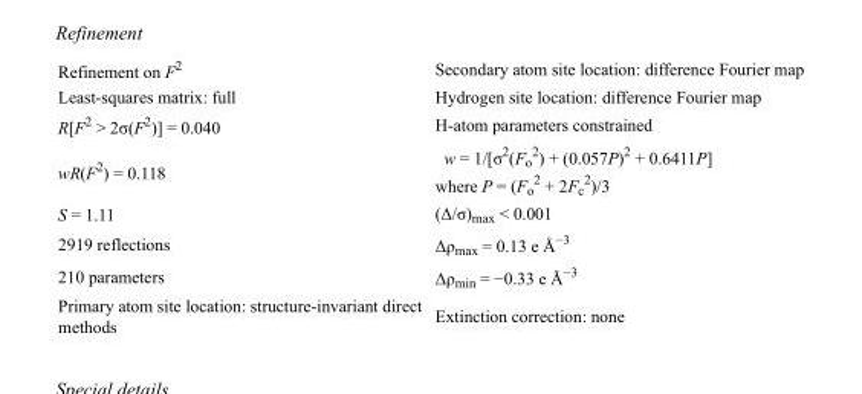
<table><tbody><tr><td>Refinement on F<sup>2</sup></td><td>Secondary atom site location: difference Fourier map</td></tr><tr><td>Least-squares matrix: full</td><td>Hydrogen site location: difference Fourier map</td></tr><tr><td>R[F<sup>2</sup> &gt; 2σ(F<sup>2</sup>)] = 0.040</td><td>H-atom parameters constrained</td></tr><tr><td>wR(F<sup>2</sup>) = 0.118</td><td>w = 1/[σ<sup>2</sup>(F<sub>o</sub> <sup>2</sup>) + (0.057P)<sup>2</sup> + 0.6411P] where P = (F<sub>o</sub> <sup>2</sup> + 2F<sub>c</sub> <sup>2</sup>)/3</td></tr><tr><td>S = 1.11</td><td>(Δ/σ)<sub>max</sub> &lt; 0.001</td></tr><tr><td>2919 reflections</td><td>Δρ<sub>max</sub> = 0.13 e Å<sup>−3</sup></td></tr><tr><td>210 parameters</td><td>Δρ<sub>min</sub> = −0.33 e Å<sup>−3</sup></td></tr><tr><td>Primary atom site location: structure-invariant direct methods</td><td>Extinction correction: none</td></tr></tbody></table>